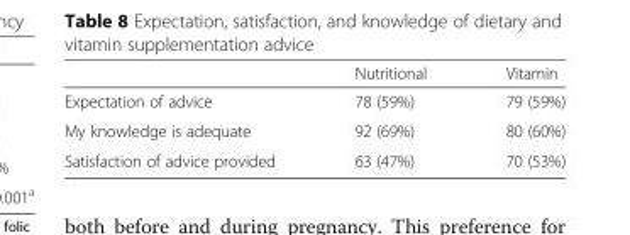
<table><thead><tr><td></td><td>Nutritional</td><td>Vitamin</td></tr></thead><tbody><tr><td>Expectation of advice</td><td>78 (59%)</td><td>79 (59%)</td></tr><tr><td>My knowledge is adequate</td><td>92 (69%)</td><td>80 (60%)</td></tr><tr><td>Satisfaction of advice provided</td><td>63 (47%)</td><td>70 (53%)</td></tr></tbody></table>